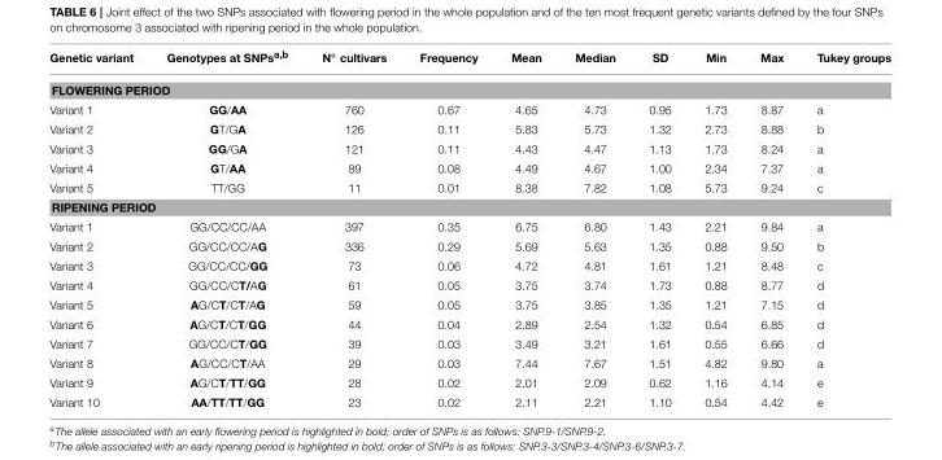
<table><thead><tr><td>Genetic variant</td><td>Genotypes at SNPs<sup>a,b</sup></td><td>N◦ cultivars</td><td>Frequency</td><td>Mean</td><td>Median</td><td>SD</td><td>Min</td><td>Max</td><td>Tukey groups</td></tr></thead><tbody><tr><td colspan="10">FLOWERING PERIOD</td></tr><tr><td>Variant 1</td><td>GG/AA</td><td>760</td><td>0.67</td><td>4.65</td><td>4.73</td><td>0.95</td><td>1.73</td><td>8.87</td><td>a</td></tr><tr><td>Variant 2</td><td>GT/GA</td><td>126</td><td>0.11</td><td>5.83</td><td>5.73</td><td>1.32</td><td>2.73</td><td>8.88</td><td>b</td></tr><tr><td>Variant 3</td><td>GG/GA</td><td>121</td><td>0.11</td><td>4.43</td><td>4.47</td><td>1.13</td><td>1.73</td><td>8.24</td><td>a</td></tr><tr><td>Variant 4</td><td>GT/AA</td><td>89</td><td>0.08</td><td>4.49</td><td>4.67</td><td>1.00</td><td>2.34</td><td>7.37</td><td>a</td></tr><tr><td>Variant 5</td><td>TT/GG</td><td>11</td><td>0.01</td><td>8.38</td><td>7.82</td><td>1.08</td><td>5.73</td><td>9.24</td><td>c</td></tr><tr><td colspan="10">RIPENING PERIOD</td></tr><tr><td>Variant 1</td><td>GG/CC/CC/AA</td><td>397</td><td>0.35</td><td>6.75</td><td>6.80</td><td>1.43</td><td>2.21</td><td>9.84</td><td>a</td></tr><tr><td>Variant 2</td><td>GG/CC/CC/AG</td><td>336</td><td>0.29</td><td>5.69</td><td>5.63</td><td>1.35</td><td>0.88</td><td>9.50</td><td>b</td></tr><tr><td>Variant 3</td><td>GG/CC/CC/GG</td><td>73</td><td>0.06</td><td>4.72</td><td>4.81</td><td>1.61</td><td>1.21</td><td>8.48</td><td>c</td></tr><tr><td>Variant 4</td><td>GG/CC/CT/AG</td><td>61</td><td>0.05</td><td>3.75</td><td>3.74</td><td>1.73</td><td>0.88</td><td>8.77</td><td>d</td></tr><tr><td>Variant 5</td><td>AG/CT/CT/AG</td><td>59</td><td>0.05</td><td>3.75</td><td>3.85</td><td>1.35</td><td>1.21</td><td>7.15</td><td>d</td></tr><tr><td>Variant 6</td><td>AG/CT/CT/GG</td><td>44</td><td>0.04</td><td>2.89</td><td>2.54</td><td>1.32</td><td>0.54</td><td>6.85</td><td>d</td></tr><tr><td>Variant 7</td><td>GG/CC/CT/GG</td><td>39</td><td>0.03</td><td>3.49</td><td>3.21</td><td>1.61</td><td>0.55</td><td>6.66</td><td>d</td></tr><tr><td>Variant 8</td><td>AG/CC/CT/AA</td><td>29</td><td>0.03</td><td>7.44</td><td>7.67</td><td>1.51</td><td>4.82</td><td>9.80</td><td>a</td></tr><tr><td>Variant 9</td><td>AG/CT/TT/GG</td><td>28</td><td>0.02</td><td>2.01</td><td>2.09</td><td>0.62</td><td>1.16</td><td>4.14</td><td>e</td></tr><tr><td>Variant 10</td><td>AA/TT/TT/GG</td><td>23</td><td>0.02</td><td>2.11</td><td>2.21</td><td>1.10</td><td>0.54</td><td>4.42</td><td>e</td></tr></tbody></table>